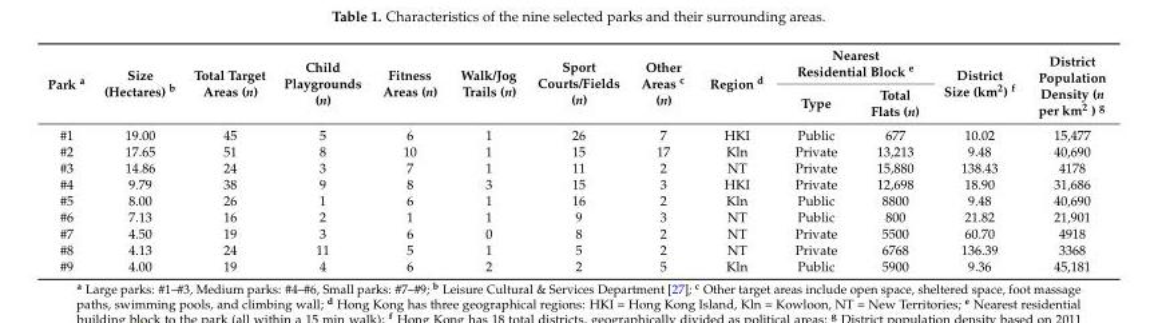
<table><thead><tr><td rowspan="2">Park <sup>a</sup></td><td rowspan="2">Size (Hectares) <sup>b</sup></td><td rowspan="2">Total Target Areas (n)</td><td rowspan="2">Child Playgrounds (n)</td><td rowspan="2">Fitness Areas (n)</td><td rowspan="2">Walk/Jog Trails (n)</td><td rowspan="2">Sport Courts/Fields (n)</td><td rowspan="2">Other Areas <sup>c</sup> (n)</td><td rowspan="2">Region <sup>d</sup></td><td colspan="2">Nearest Residential Block <sup>e</sup></td><td rowspan="2">District Size (km<sup>2</sup>) <sup>f</sup></td><td rowspan="2">District Population Density (n per km<sup>2</sup> ) <sup>g</sup></td></tr><tr><td>Type</td><td>Total Flats (n)</td></tr></thead><tbody><tr><td>#1</td><td>19.00</td><td>45</td><td>5</td><td>6</td><td>1</td><td>26</td><td>7</td><td>HKI</td><td>Public</td><td>677</td><td>10.02</td><td>15,477</td></tr><tr><td>#2</td><td>17.65</td><td>51</td><td>8</td><td>10</td><td>1</td><td>15</td><td>17</td><td>Kln</td><td>Private</td><td>13,213</td><td>9.48</td><td>40,690</td></tr><tr><td>#3</td><td>14.86</td><td>24</td><td>3</td><td>7</td><td>1</td><td>11</td><td>2</td><td>NT</td><td>Private</td><td>15,880</td><td>138.43</td><td>4178</td></tr><tr><td>#4</td><td>9.79</td><td>38</td><td>9</td><td>8</td><td>3</td><td>15</td><td>3</td><td>HKI</td><td>Private</td><td>12,698</td><td>18.90</td><td>31,686</td></tr><tr><td>#5</td><td>8.00</td><td>26</td><td>1</td><td>6</td><td>1</td><td>16</td><td>2</td><td>Kln</td><td>Public</td><td>8800</td><td>9.48</td><td>40,690</td></tr><tr><td>#6</td><td>7.13</td><td>16</td><td>2</td><td>1</td><td>1</td><td>9</td><td>3</td><td>NT</td><td>Public</td><td>800</td><td>21.82</td><td>21,901</td></tr><tr><td>#7</td><td>4.50</td><td>19</td><td>3</td><td>6</td><td>0</td><td>8</td><td>2</td><td>NT</td><td>Private</td><td>5500</td><td>60.70</td><td>4918</td></tr><tr><td>#8</td><td>4.13</td><td>24</td><td>11</td><td>5</td><td>1</td><td>5</td><td>2</td><td>NT</td><td>Private</td><td>6768</td><td>136.39</td><td>3368</td></tr><tr><td>#9</td><td>4.00</td><td>19</td><td>4</td><td>6</td><td>2</td><td>2</td><td>5</td><td>Kln</td><td>Public</td><td>5900</td><td>9.36</td><td>45,181</td></tr></tbody></table>